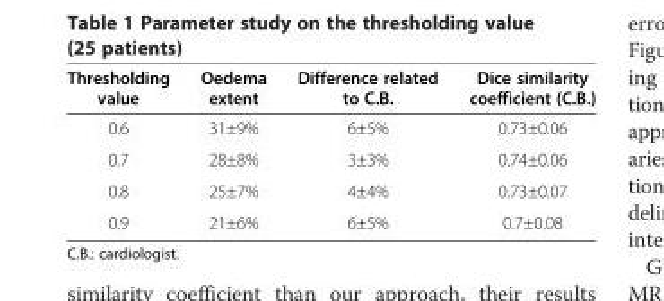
<table><thead><tr><td>Thresholding value</td><td>Oedema extent</td><td>Difference related to C.B.</td><td>Dice similarity coefficient (C.B.)</td></tr></thead><tbody><tr><td>0.6</td><td>31±9%</td><td>6±5%</td><td>0.73±0.06</td></tr><tr><td>0.7</td><td>28±8%</td><td>3±3%</td><td>0.74±0.06</td></tr><tr><td>0.8</td><td>25±7%</td><td>4±4%</td><td>0.73±0.07</td></tr><tr><td>0.9</td><td>21±6%</td><td>6±5%</td><td>0.7±0.08</td></tr></tbody></table>